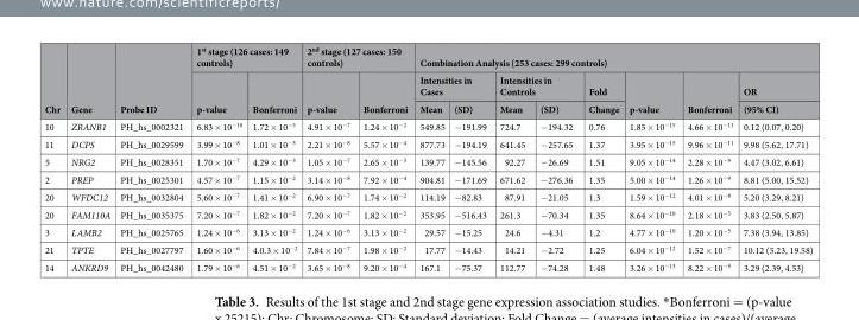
<table><thead><tr><td rowspan="3">Chr</td><td rowspan="3">Gene</td><td rowspan="3">Probe ID</td><td colspan="2">1<sup>st</sup> stage (126 cases: 149 controls)</td><td colspan="2">2<sup>nd</sup> stage (127 cases: 150 controls)</td><td colspan="8">Combination Analysis (253 cases: 299 controls)</td></tr><tr><td rowspan="2">p-value</td><td rowspan="2">Bonferroni</td><td rowspan="2">p-value</td><td rowspan="2">Bonferroni</td><td colspan="2">Intensities in Cases</td><td colspan="2">Intensities in Controls</td><td rowspan="2">Fold Change</td><td rowspan="2">p-value</td><td rowspan="2">Bonferroni</td><td rowspan="2">OR (95% CI)</td></tr><tr><td>Mean</td><td>(SD)</td><td>Mean</td><td>(SD)</td></tr></thead><tbody><tr><td>10</td><td>ZRANB1</td><td>PH_hs_0002321</td><td>6.83 × 10<sup>−10</sup></td><td>1.72 × 10<sup>−5</sup></td><td>4.91 × 10<sup>−7</sup></td><td>1.24 × 10<sup>−2</sup></td><td>549.85</td><td>−191.99</td><td>724.7</td><td>−194.32</td><td>0.76</td><td>1.85 × 10<sup>−15</sup></td><td>4.66 × 10<sup>−11</sup></td><td>0.12 (0.07, 0.20)</td></tr><tr><td>11</td><td>DCPS</td><td>PH_hs_0029599</td><td>3.99 × 10<sup>−8</sup></td><td>1.01 × 10<sup>−3</sup></td><td>2.21 × 10<sup>−8</sup></td><td>5.57 × 10<sup>−4</sup></td><td>877.73</td><td>−194.19</td><td>641.45</td><td>−257.65</td><td>1.37</td><td>3.95 × 10<sup>−15</sup></td><td>9.96 × 10<sup>−11</sup></td><td>9.98 (5.62, 17.71)</td></tr><tr><td>5</td><td>NRG2</td><td>PH_hs_0028351</td><td>1.70 × 10<sup>−7</sup></td><td>4.29 × 10<sup>−3</sup></td><td>1.05 × 10<sup>−7</sup></td><td>2.65 × 10<sup>−3</sup></td><td>139.77</td><td>−145.56</td><td>92.27</td><td>−26.69</td><td>1.51</td><td>9.05 × 10<sup>−14</sup></td><td>2.28 × 10<sup>−9</sup></td><td>4.47 (3.02, 6.61)</td></tr><tr><td>2</td><td>PREP</td><td>PH_hs_0025301</td><td>4.57 × 10<sup>−7</sup></td><td>1.15 × 10<sup>−2</sup></td><td>3.14 × 10<sup>−8</sup></td><td>7.92 × 10<sup>−4</sup></td><td>904.81</td><td>−171.69</td><td>671.62</td><td>−276.36</td><td>1.35</td><td>5.00 × 10<sup>−14</sup></td><td>1.26 × 10<sup>−9</sup></td><td>8.81 (5.00, 15.52)</td></tr><tr><td>20</td><td>WFDC12</td><td>PH_hs_0032804</td><td>5.60 × 10<sup>−7</sup></td><td>1.41 × 10<sup>−2</sup></td><td>6.90 × 10<sup>−7</sup></td><td>1.74 × 10<sup>−2</sup></td><td>114.19</td><td>−82.83</td><td>87.91</td><td>−21.05</td><td>1.3</td><td>1.59 × 10<sup>−12</sup></td><td>4.01 × 10<sup>−8</sup></td><td>5.20 (3.29, 8.21)</td></tr><tr><td>20</td><td>FAM110A</td><td>PH_hs_0035375</td><td>7.20 × 10<sup>−7</sup></td><td>1.82 × 10<sup>−2</sup></td><td>7.20 × 10<sup>−7</sup></td><td>1.82 × 10<sup>−2</sup></td><td>353.95</td><td>−516.43</td><td>261.3</td><td>−70.34</td><td>1.35</td><td>8.64 × 10<sup>−10</sup></td><td>2.18 × 10<sup>−5</sup></td><td>3.83 (2.50, 5.87)</td></tr><tr><td>3</td><td>LAMB2</td><td>PH_hs_0025765</td><td>1.24 × 10<sup>−6</sup></td><td>3.13 × 10<sup>−2</sup></td><td>1.24 × 10<sup>−6</sup></td><td>3.13 × 10<sup>−2</sup></td><td>29.57</td><td>−15.25</td><td>24.6</td><td>−4.31</td><td>1.2</td><td>4.77 × 10<sup>−10</sup></td><td>1.20 × 10<sup>−5</sup></td><td>7.38 (3.94, 13.85)</td></tr><tr><td>21</td><td>TPTE</td><td>PH_hs_0027797</td><td>1.60 × 10<sup>−6</sup></td><td>4.0.3 × 10<sup>−2</sup></td><td>7.84 × 10<sup>−7</sup></td><td>1.98 × 10<sup>−2</sup></td><td>17.77</td><td>−14.43</td><td>14.21</td><td>−2.72</td><td>1.25</td><td>6.04 × 10<sup>−12</sup></td><td>1.52 × 10<sup>−7</sup></td><td>10.12 (5.23, 19.58)</td></tr><tr><td>14</td><td>ANKRD9</td><td>PH_hs_0042480</td><td>1.79 × 10<sup>−6</sup></td><td>4.51 × 10<sup>−2</sup></td><td>3.65 × 10<sup>−8</sup></td><td>9.20 × 10<sup>−4</sup></td><td>167.1</td><td>−75.37</td><td>112.77</td><td>−74.28</td><td>1.48</td><td>3.26 × 10<sup>−13</sup></td><td>8.22 × 10<sup>−9</sup></td><td>3.29 (2.39, 4.53)</td></tr></tbody></table>